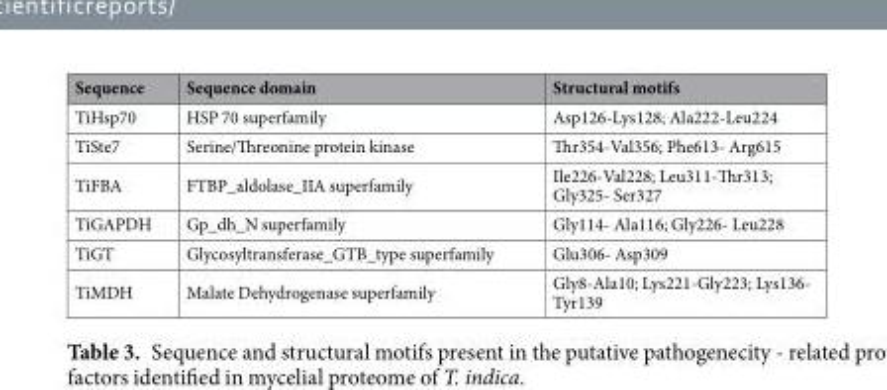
<table><thead><tr><td>Sequence</td><td>Sequence domain</td><td>Structural motifs</td></tr></thead><tbody><tr><td>TiHsp70</td><td>HSP 70 superfamily</td><td>Asp126-Lys128; Ala222-Leu224</td></tr><tr><td>TiSte7</td><td>Serine/Threonine protein kinase</td><td>Thr354-Val356; Phe613- Arg615</td></tr><tr><td>TiFBA</td><td>FTBP_aldolase_IIA superfamily</td><td>Ile226-Val228; Leu311-Thr313; Gly325- Ser327</td></tr><tr><td>TiGAPDH</td><td>Gp_dh_N superfamily</td><td>Gly114- Ala116; Gly226- Leu228</td></tr><tr><td>TiGT</td><td>Glycosyltransferase_GTB_type superfamily</td><td>Glu306- Asp309</td></tr><tr><td>TiMDH</td><td>Malate Dehydrogenase superfamily</td><td>Gly8-Ala10; Lys221-Gly223; Lys136- Tyr139</td></tr></tbody></table>